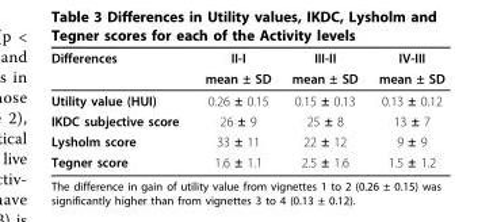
<table><thead><tr><td rowspan="2">Differences</td><td rowspan="2">II-I mean ± SD</td><td rowspan="2">III-II mean ± SD</td><td rowspan="2">IV-III mean ± SD</td></tr><tr></tr></thead><tbody><tr><td>Utility value (HUI)</td><td>0.26 ± 0.15</td><td>0.15 ± 0.13</td><td>0.13 ± 0.12</td></tr><tr><td>IKDC subjective score</td><td>26 ± 9</td><td>25 ± 8</td><td>13 ± 7</td></tr><tr><td>Lysholm score</td><td>33 ± 11</td><td>22 ± 12</td><td>9 ± 9</td></tr><tr><td>Tegner score</td><td>1.6 ± 1.1</td><td>2.5 ± 1.6</td><td>1.5 ± 1.2</td></tr></tbody></table>